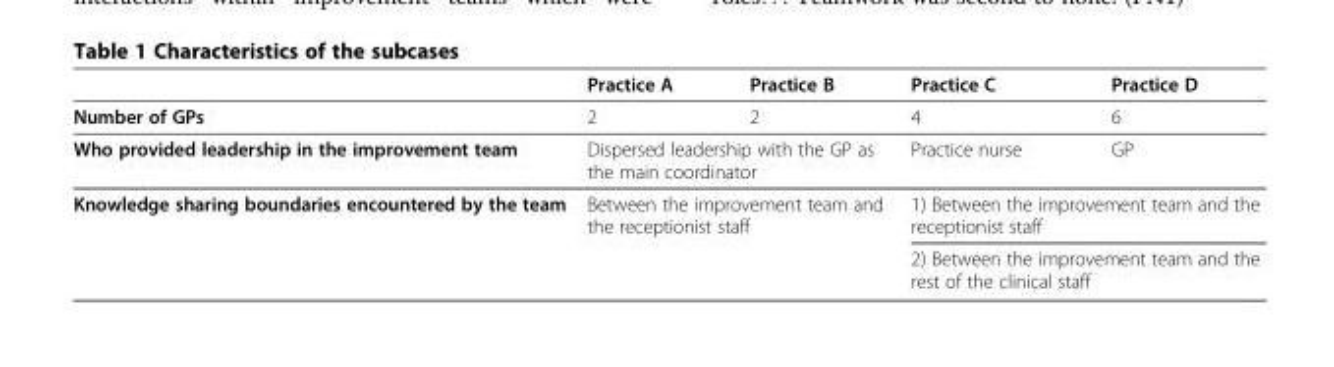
<table><thead><tr><td></td><td>Practice A</td><td>Practice B</td><td>Practice C</td><td>Practice D</td></tr></thead><tbody><tr><td>Number of GPs</td><td>2</td><td>2</td><td>4</td><td>6</td></tr><tr><td>Who provided leadership in the improvement team</td><td colspan="2">Dispersed leadership with the GP as the main coordinator</td><td>Practice nurse</td><td>GP</td></tr><tr><td rowspan="2">Knowledge sharing boundaries encountered by the team</td><td colspan="2">Between the improvement team and the receptionist staff</td><td colspan="2">1) Between the improvement team and the receptionist staff</td></tr><tr><td></td><td></td><td colspan="2">2) Between the improvement team and the rest of the clinical staff</td></tr></tbody></table>